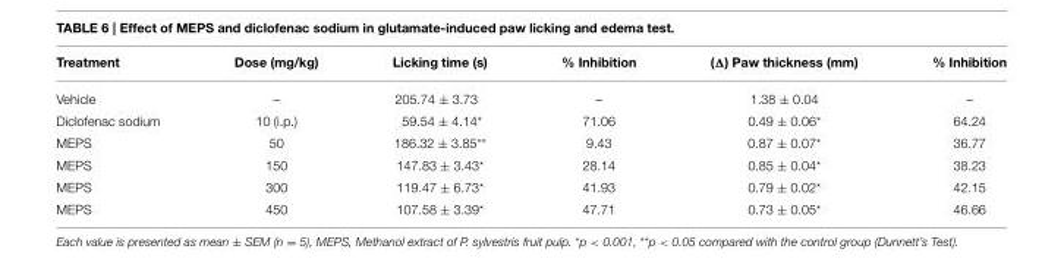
<table><thead><tr><td>Treatment</td><td>Dose (mg/kg)</td><td>Licking time (s)</td><td>% Inhibition</td><td>(Δ) Paw thickness (mm)</td><td>% Inhibition</td></tr></thead><tbody><tr><td>Vehicle</td><td>–</td><td>205.74 ± 3.73</td><td>–</td><td>1.38 ± 0.04</td><td>–</td></tr><tr><td>Diclofenac sodium</td><td>10 (i.p.)</td><td>59.54 ± 4.14*</td><td>71.06</td><td>0.49 ± 0.06*</td><td>64.24</td></tr><tr><td>MEPS</td><td>50</td><td>186.32 ± 3.85**</td><td>9.43</td><td>0.87 ± 0.07*</td><td>36.77</td></tr><tr><td>MEPS</td><td>150</td><td>147.83 ± 3.43*</td><td>28.14</td><td>0.85 ± 0.04*</td><td>38.23</td></tr><tr><td>MEPS</td><td>300</td><td>119.47 ± 6.73*</td><td>41.93</td><td>0.79 ± 0.02*</td><td>42.15</td></tr><tr><td>MEPS</td><td>450</td><td>107.58 ± 3.39*</td><td>47.71</td><td>0.73 ± 0.05*</td><td>46.66</td></tr></tbody></table>